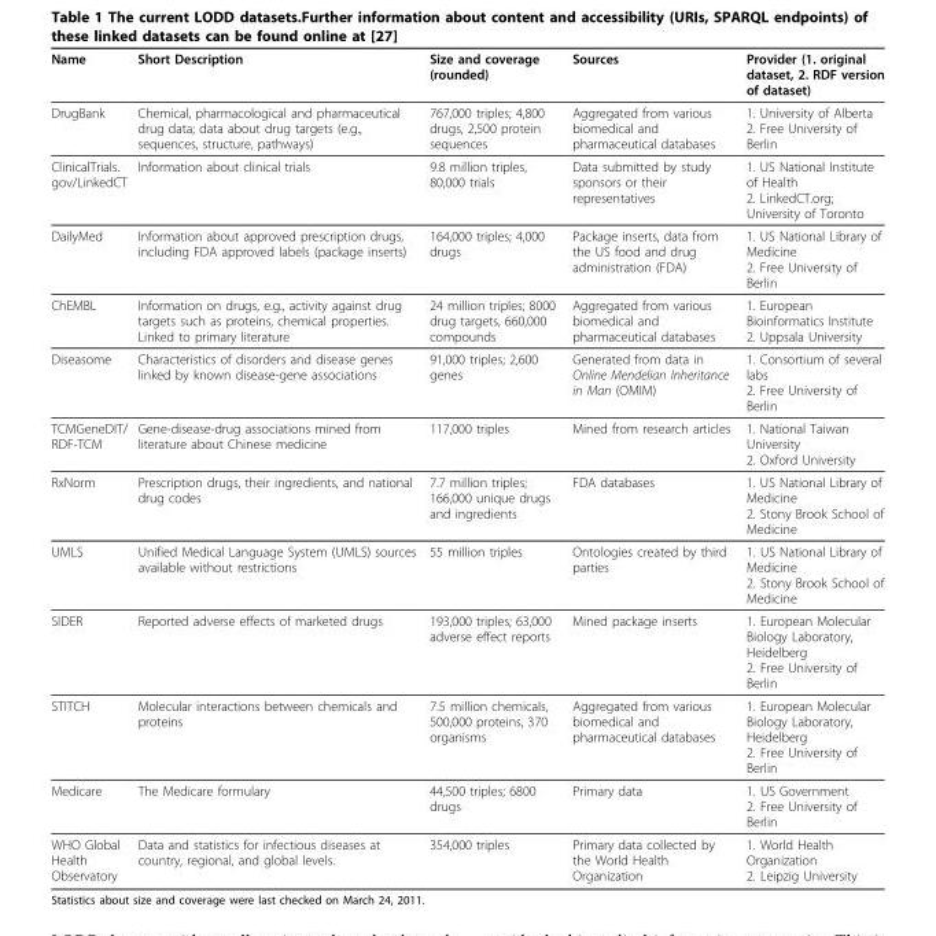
<table><thead><tr><td>Name</td><td>Short Description</td><td>Size and coverage (rounded)</td><td>Sources</td><td>Provider (1. original dataset, 2. RDF version of dataset)</td></tr></thead><tbody><tr><td>DrugBank</td><td>Chemical, pharmacological and pharmaceutical drug data; data about drug targets (e.g., sequences, structure, pathways)</td><td>767,000 triples; 4,800 drugs, 2,500 protein sequences</td><td>Aggregated from various biomedical and pharmaceutical databases</td><td>1. University of Alberta 2. Free University of Berlin</td></tr><tr><td>ClinicalTrials. gov/LinkedCT</td><td>Information about clinical trials</td><td>9.8 million triples, 80,000 trials</td><td>Data submitted by study sponsors or their representatives</td><td>1. US National Institute of Health 2. LinkedCT.org; University of Toronto</td></tr><tr><td>DailyMed</td><td>Information about approved prescription drugs, including FDA approved labels (package inserts)</td><td>164,000 triples; 4,000 drugs</td><td>Package inserts, data from the US food and drug administration (FDA)</td><td>1. US National Library of Medicine 2. Free University of Berlin</td></tr><tr><td>ChEMBL</td><td>Information on drugs, e.g., activity against drug targets such as proteins, chemical properties. Linked to primary literature</td><td>24 million triples; 8000 drug targets, 660,000 compounds</td><td>Aggregated from various biomedical and pharmaceutical databases</td><td>1. European Bioinformatics Institute 2. Uppsala University</td></tr><tr><td>Diseasome</td><td>Characteristics of disorders and disease genes linked by known disease-gene associations</td><td>91,000 triples; 2,600 genes</td><td>Generated from data in Online Mendelian Inheritance in Man (OMIM)</td><td>1. Consortium of several labs 2. Free University of Berlin</td></tr><tr><td>TCMGeneDIT/ RDF-TCM</td><td>Gene-disease-drug associations mined from literature about Chinese medicine</td><td>117,000 triples</td><td>Mined from research articles</td><td>1. National Taiwan University 2. Oxford University</td></tr><tr><td>RxNorm</td><td>Prescription drugs, their ingredients, and national drug codes</td><td>7.7 million triples; 166,000 unique drugs and ingredients</td><td>FDA databases</td><td>1. US National Library of Medicine 2. Stony Brook School of Medicine</td></tr><tr><td>UMLS</td><td>Unified Medical Language System (UMLS) sources available without restrictions</td><td>55 million triples</td><td>Ontologies created by third parties</td><td>1. US National Library of Medicine 2. Stony Brook School of Medicine</td></tr><tr><td>SIDER</td><td>Reported adverse effects of marketed drugs</td><td>193,000 triples; 63,000 adverse effect reports</td><td>Mined package inserts</td><td>1. European Molecular Biology Laboratory, Heidelberg 2. Free University of Berlin</td></tr><tr><td>STITCH</td><td>Molecular interactions between chemicals and proteins</td><td>7.5 million chemicals, 500,000 proteins, 370 organisms</td><td>Aggregated from various biomedical and pharmaceutical databases</td><td>1. European Molecular Biology Laboratory, Heidelberg 2. Free University of Berlin</td></tr><tr><td>Medicare</td><td>The Medicare formulary</td><td>44,500 triples; 6800 drugs</td><td>Primary data</td><td>1. US Government 2. Free University of Berlin</td></tr><tr><td>WHO Global Health Observatory</td><td>Data and statistics for infectious diseases at country, regional, and global levels.</td><td>354,000 triples</td><td>Primary data collected by the World Health Organization</td><td>1. World Health Organization 2. Leipzig University</td></tr></tbody></table>